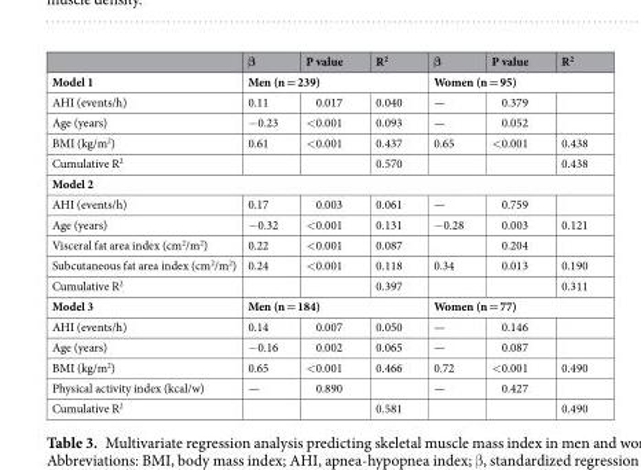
<table><thead><tr><td></td><td>β</td><td>P value</td><td>R<sup>2</sup></td><td>β</td><td>P value</td><td>R<sup>2</sup></td></tr></thead><tbody><tr><td>Model 1</td><td colspan="3">Men (n = 239)</td><td colspan="3">Women (n = 95)</td></tr><tr><td>AHI (events/h)</td><td>0.11</td><td>0.017</td><td>0.040</td><td>—</td><td>0.379</td><td></td></tr><tr><td>Age (years)</td><td>−0.23</td><td>&lt;0.001</td><td>0.093</td><td>—</td><td>0.052</td><td></td></tr><tr><td>BMI (kg/m<sup>2</sup>)</td><td>0.61</td><td>&lt;0.001</td><td>0.437</td><td>0.65</td><td>&lt;0.001</td><td>0.438</td></tr><tr><td>Cumulative R<sup>2</sup></td><td></td><td></td><td>0.570</td><td></td><td></td><td>0.438</td></tr><tr><td colspan="7">Model 2</td></tr><tr><td>AHI (events/h)</td><td>0.17</td><td>0.003</td><td>0.061</td><td>—</td><td>0.759</td><td></td></tr><tr><td>Age (years)</td><td>−0.32</td><td>&lt;0.001</td><td>0.131</td><td>−0.28</td><td>0.003</td><td>0.121</td></tr><tr><td>Visceral fat area index (cm<sup>2</sup>/m<sup>2</sup>)</td><td>0.22</td><td>&lt;0.001</td><td>0.087</td><td></td><td>0.204</td><td></td></tr><tr><td>Subcutaneous fat area index (cm<sup>2</sup>/m<sup>2</sup>)</td><td>0.24</td><td>&lt;0.001</td><td>0.118</td><td>0.34</td><td>0.013</td><td>0.190</td></tr><tr><td>Cumulative R<sup>2</sup></td><td></td><td></td><td>0.397</td><td></td><td></td><td>0.311</td></tr><tr><td>Model 3</td><td colspan="3">Men (n = 184)</td><td colspan="3">Women (n = 77)</td></tr><tr><td>AHI (events/h)</td><td>0.14</td><td>0.007</td><td>0.050</td><td>—</td><td>0.146</td><td></td></tr><tr><td>Age (years)</td><td>−0.16</td><td>0.002</td><td>0.065</td><td>—</td><td>0.087</td><td></td></tr><tr><td>BMI (kg/m<sup>2</sup>)</td><td>0.65</td><td>&lt;0.001</td><td>0.466</td><td>0.72</td><td>&lt;0.001</td><td>0.490</td></tr><tr><td>Physical activity index (kcal/w)</td><td>—</td><td>0.890</td><td></td><td>—</td><td>0.427</td><td></td></tr><tr><td>Cumulative R<sup>2</sup></td><td></td><td></td><td>0.581</td><td></td><td></td><td>0.490</td></tr></tbody></table>